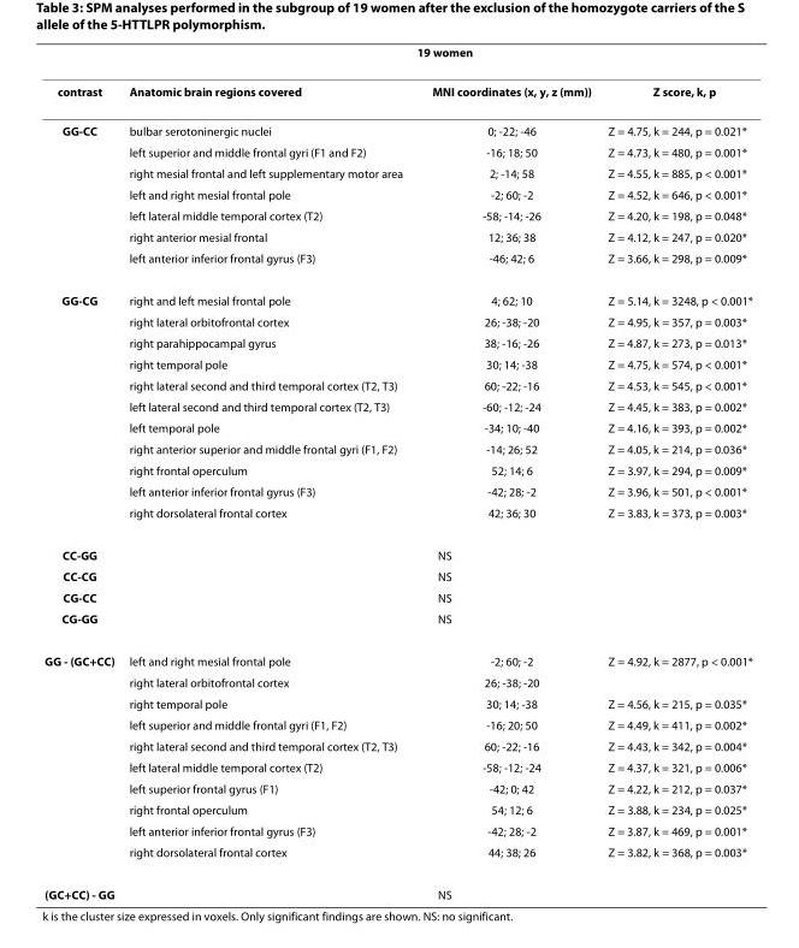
<table><thead><tr><td rowspan="2">contrast</td><td colspan="3">19 women</td></tr><tr><td>Anatomic brain regions covered</td><td>MNI coordinates (x, y, z (mm))</td><td>Z score, k, p</td></tr></thead><tbody><tr><td rowspan="7">GG-CC</td><td>bulbar serotoninergic nuclei</td><td>0; -22; -46</td><td>Z = 4.75, k = 244, p = 0.021*</td></tr><tr><td>left superior and middle frontal gyri (F1 and F2)</td><td>-16; 18; 50</td><td>Z = 4.73, k = 480, p = 0.001*</td></tr><tr><td>right mesial frontal and left supplementary motor area</td><td>2; -14; 58</td><td>Z = 4.55, k = 885, p &lt; 0.001*</td></tr><tr><td>left and right mesial frontal pole</td><td>-2; 60; -2</td><td>Z = 4.52, k = 646, p &lt; 0.001*</td></tr><tr><td>left lateral middle temporal cortex (T2)</td><td>-58; -14; -26</td><td>Z = 4.20, k = 198, p = 0.048*</td></tr><tr><td>right anterior mesial frontal</td><td>12; 36; 38</td><td>Z = 4.12, k = 247, p = 0.020*</td></tr><tr><td>left anterior inferior frontal gyrus (F3)</td><td>-46; 42; 6</td><td>Z = 3.66, k = 298, p = 0.009*</td></tr><tr><td rowspan="11">GG-CG</td><td>right and left mesial frontal pole</td><td>4; 62; 10</td><td>Z = 5.14, k = 3248, p &lt; 0.001*</td></tr><tr><td>right lateral orbitofrontal cortex</td><td>26; -38; -20</td><td>Z = 4.95, k = 357, p = 0.003*</td></tr><tr><td>right parahippocampal gyrus</td><td>38; -16; -26</td><td>Z = 4.87, k = 273, p = 0.013*</td></tr><tr><td>right temporal pole</td><td>30; 14; -38</td><td>Z = 4.75, k = 574, p &lt; 0.001*</td></tr><tr><td>right lateral second and third temporal cortex (T2, T3)</td><td>60; -22; -16</td><td>Z = 4.53, k = 545, p &lt; 0.001*</td></tr><tr><td>left lateral second and third temporal cortex (T2, T3)</td><td>-60; -12; -24</td><td>Z = 4.45, k = 383, p = 0.002*</td></tr><tr><td>left temporal pole</td><td>-34; 10; -40</td><td>Z = 4.16, k = 393, p = 0.002*</td></tr><tr><td>right anterior superior and middle frontal gyri (F1, F2)</td><td>-14; 26; 52</td><td>Z = 4.05, k = 214, p = 0.036*</td></tr><tr><td>right frontal operculum</td><td>52; 14; 6</td><td>Z = 3.97, k = 294, p = 0.009*</td></tr><tr><td>left anterior inferior frontal gyrus (F3)</td><td>-42; 28; -2</td><td>Z = 3.96, k = 501, p &lt; 0.001*</td></tr><tr><td>right dorsolateral frontal cortex</td><td>42; 36; 30</td><td>Z = 3.83, k = 373, p = 0.003*</td></tr><tr><td>CC-GG</td><td colspan="3">NS</td></tr><tr><td>CC-CG</td><td colspan="3">NS</td></tr><tr><td>CG-CC</td><td colspan="3">NS</td></tr><tr><td>CG-GG</td><td colspan="3">NS</td></tr><tr><td rowspan="10">GG - (GC+CC)</td><td>left and right mesial frontal pole</td><td>-2; 60; -2</td><td>Z = 4.92, k = 2877, p &lt; 0.001*</td></tr><tr><td>right lateral orbitofrontal cortex</td><td>26; -38; -20</td><td></td></tr><tr><td>right temporal pole</td><td>30; 14; -38</td><td>Z = 4.56, k = 215, p = 0.035*</td></tr><tr><td>left superior and middle frontal gyri (F1, F2)</td><td>-16; 20; 50</td><td>Z = 4.49, k = 411, p = 0.002*</td></tr><tr><td>right lateral second and third temporal cortex (T2, T3)</td><td>60; -22; -16</td><td>Z = 4.43, k = 342, p = 0.004*</td></tr><tr><td>left lateral middle temporal cortex (T2)</td><td>-58; -12; -24</td><td>Z = 4.37, k = 321, p = 0.006*</td></tr><tr><td>left superior frontal gyrus (F1)</td><td>-42; 0; 42</td><td>Z = 4.22, k = 212, p = 0.037*</td></tr><tr><td>right frontal operculum</td><td>54; 12; 6</td><td>Z = 3.88, k = 234, p = 0.025*</td></tr><tr><td>left anterior inferior frontal gyrus (F3)</td><td>-42; 28; -2</td><td>Z = 3.87, k = 469, p = 0.001*</td></tr><tr><td>right dorsolateral frontal cortex</td><td>44; 38; 26</td><td>Z = 3.82, k = 368, p = 0.003*</td></tr><tr><td>(GC+CC) - GG</td><td colspan="3">NS</td></tr></tbody></table>